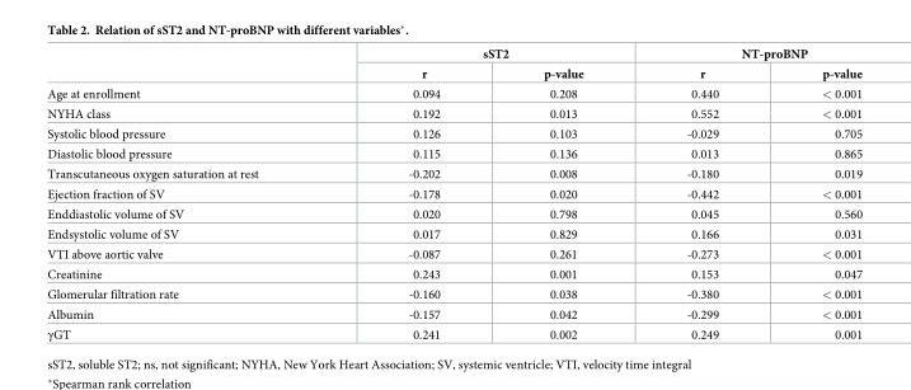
<table><thead><tr><td rowspan="2"></td><td colspan="2">sST2</td><td colspan="2">NT-proBNP</td></tr><tr><td>r</td><td>p-value</td><td>r</td><td>p-value</td></tr></thead><tbody><tr><td>Age at enrollment</td><td>0.094</td><td>0.208</td><td>0.440</td><td>&lt; 0.001</td></tr><tr><td>NYHA class</td><td>0.192</td><td>0.013</td><td>0.552</td><td>&lt; 0.001</td></tr><tr><td>Systolic blood pressure</td><td>0.126</td><td>0.103</td><td>-0.029</td><td>0.705</td></tr><tr><td>Diastolic blood pressure</td><td>0.115</td><td>0.136</td><td>0.013</td><td>0.865</td></tr><tr><td>Transcutaneous oxygen saturation at rest</td><td>-0.202</td><td>0.008</td><td>-0.180</td><td>0.019</td></tr><tr><td>Ejection fraction of SV</td><td>-0.178</td><td>0.020</td><td>-0.442</td><td>&lt; 0.001</td></tr><tr><td>Enddiastolic volume of SV</td><td>0.020</td><td>0.798</td><td>0.045</td><td>0.560</td></tr><tr><td>Endsystolic volume of SV</td><td>0.017</td><td>0.829</td><td>0.166</td><td>0.031</td></tr><tr><td>VTI above aortic valve</td><td>-0.087</td><td>0.261</td><td>-0.273</td><td>&lt; 0.001</td></tr><tr><td>Creatinine</td><td>0.243</td><td>0.001</td><td>0.153</td><td>0.047</td></tr><tr><td>Glomerular filtration rate</td><td>-0.160</td><td>0.038</td><td>-0.380</td><td>&lt; 0.001</td></tr><tr><td>Albumin</td><td>-0.157</td><td>0.042</td><td>-0.299</td><td>&lt; 0.001</td></tr><tr><td>γGT</td><td>0.241</td><td>0.002</td><td>0.249</td><td>0.001</td></tr></tbody></table>